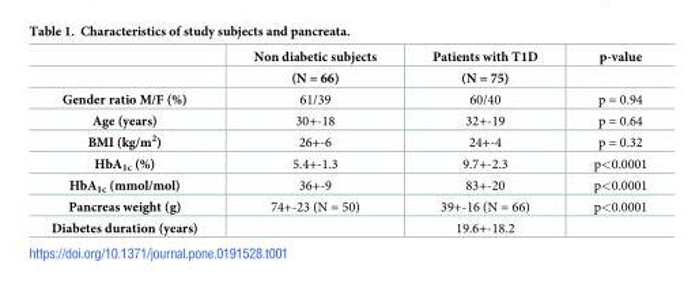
<table><thead><tr><td rowspan="2"></td><td rowspan="2">Non diabetic subjects (N = 66)</td><td rowspan="2">Patients with T1D (N = 75)</td><td rowspan="2">p-value</td></tr><tr></tr></thead><tbody><tr><td>Gender ratio M/F (%)</td><td>61/39</td><td>60/40</td><td>p = 0.94</td></tr><tr><td>Age (years)</td><td>30+-18</td><td>32+-19</td><td>p = 0.64</td></tr><tr><td>BMI (kg/m<sup>2</sup>)</td><td>26+-6</td><td>24+-4</td><td>p = 0.32</td></tr><tr><td>HbA<sub>1c</sub> (%)</td><td>5.4+-1.3</td><td>9.7+-2.3</td><td>p&lt;0.0001</td></tr><tr><td>HbA<sub>1c</sub> (mmol/mol)</td><td>36+-9</td><td>83+-20</td><td>p&lt;0.0001</td></tr><tr><td>Pancreas weight (g)</td><td>74+-23 (N = 50)</td><td>39+-16 (N = 66)</td><td>p&lt;0.0001</td></tr><tr><td>Diabetes duration (years)</td><td></td><td>19.6+-18.2</td><td></td></tr></tbody></table>